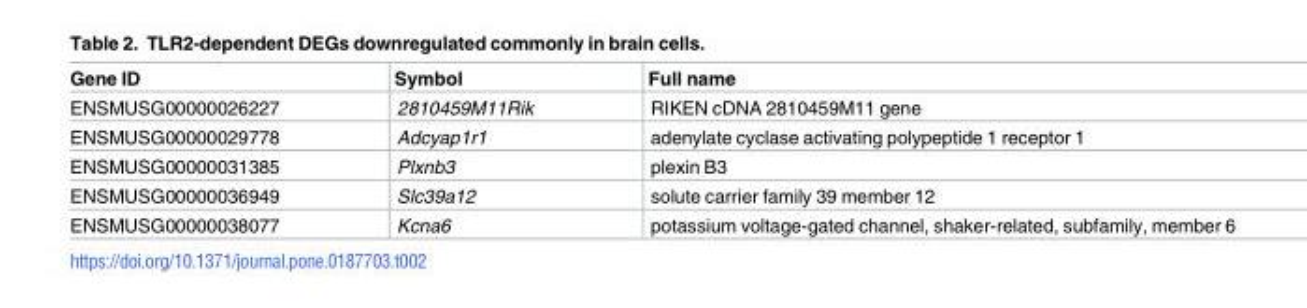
<table><thead><tr><td>Gene ID</td><td>Symbol</td><td>Full name</td></tr></thead><tbody><tr><td>ENSMUSG00000026227</td><td>2810459M11Rik</td><td>RIKEN cDNA 2810459M11 gene</td></tr><tr><td>ENSMUSG00000029778</td><td>Adcyap1r1</td><td>adenylate cyclase activating polypeptide 1 receptor 1</td></tr><tr><td>ENSMUSG00000031385</td><td>Plxnb3</td><td>plexin B3</td></tr><tr><td>ENSMUSG00000036949</td><td>Slc39a12</td><td>solute carrier family 39 member 12</td></tr><tr><td>ENSMUSG00000038077</td><td>Kcna6</td><td>potassium voltage-gated channel, shaker-related, subfamily, member 6</td></tr></tbody></table>